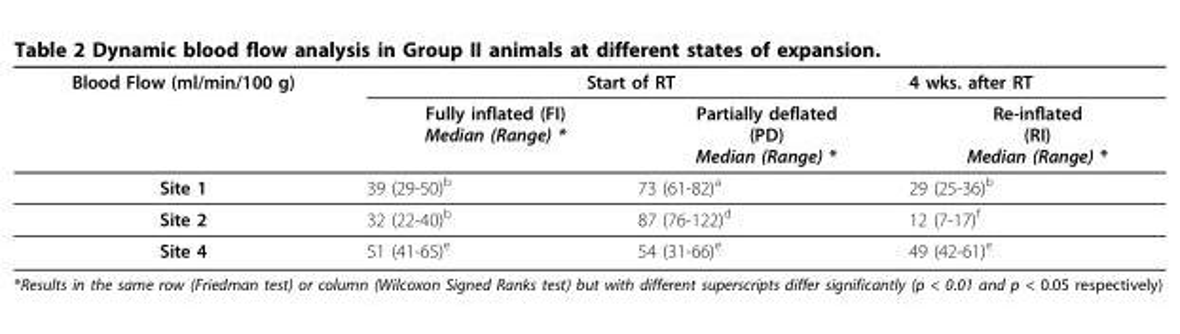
<table><thead><tr><td rowspan="2">Blood Flow (ml/min/100 g)</td><td colspan="2">Start of RT</td><td rowspan="2">4 wks. after RT Re-inflated (RI) Median (Range) *</td></tr><tr><td>Fully inflated (FI) Median (Range) *</td><td>Partially deflated (PD) Median (Range) *</td></tr></thead><tbody><tr><td>Site 1</td><td>39 (29-50)<sup>b</sup></td><td>73 (61-82)<sup>a</sup></td><td>29 (25-36)<sup>b</sup></td></tr><tr><td>Site 2</td><td>32 (22-40)<sup>b</sup></td><td>87 (76-122)<sup>d</sup></td><td>12 (7-17)<sup>f</sup></td></tr><tr><td>Site 4</td><td>51 (41-65)<sup>e</sup></td><td>54 (31-66)<sup>e</sup></td><td>49 (42-61)<sup>e</sup></td></tr></tbody></table>